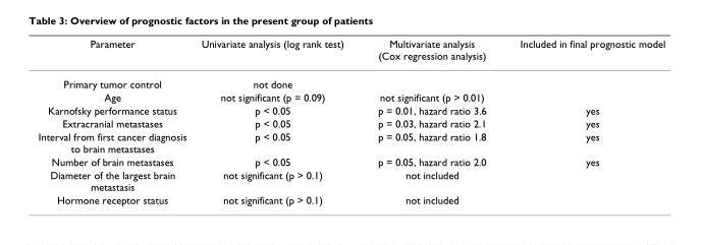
<table><thead><tr><td>Parameter</td><td>Univariate analysis (log rank test)</td><td>Multivariate analysis (Cox regression analysis)</td><td>Included in final prognostic model</td></tr></thead><tbody><tr><td>Primary tumor control</td><td>not done</td><td></td><td></td></tr><tr><td>Age</td><td>not significant (p = 0.09)</td><td>not significant (p &gt; 0.01)</td><td></td></tr><tr><td>Karnofsky performance status</td><td>p &lt; 0.05</td><td>p = 0.01, hazard ratio 3.6</td><td>yes</td></tr><tr><td>Extracranial metastases</td><td>p &lt; 0.05</td><td>p = 0.03, hazard ratio 2.1</td><td>yes</td></tr><tr><td>Interval from first cancer diagnosis to brain metastases</td><td>p &lt; 0.05</td><td>p = 0.05, hazard ratio 1.8</td><td>yes</td></tr><tr><td>Number of brain metastases</td><td>p &lt; 0.05</td><td>p = 0.05, hazard ratio 2.0</td><td>yes</td></tr><tr><td>Diameter of the largest brain metastasis</td><td>not significant (p &gt; 0.1)</td><td>not included</td><td></td></tr><tr><td>Hormone receptor status</td><td>not significant (p &gt; 0.1)</td><td>not included</td><td></td></tr></tbody></table>